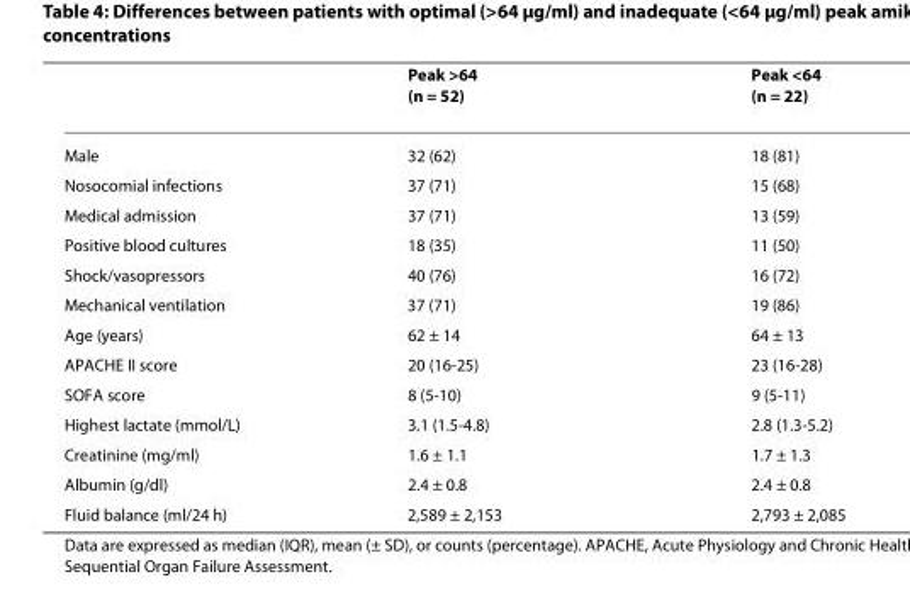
<table><thead><tr><td></td><td>Peak &gt;64 (n = 52)</td><td>Peak &lt;64 (n = 22)</td></tr></thead><tbody><tr><td>Male</td><td>32 (62)</td><td>18 (81)</td></tr><tr><td>Nosocomial infections</td><td>37 (71)</td><td>15 (68)</td></tr><tr><td>Medical admission</td><td>37 (71)</td><td>13 (59)</td></tr><tr><td>Positive blood cultures</td><td>18 (35)</td><td>11 (50)</td></tr><tr><td>Shock/vasopressors</td><td>40 (76)</td><td>16 (72)</td></tr><tr><td>Mechanical ventilation</td><td>37 (71)</td><td>19 (86)</td></tr><tr><td>Age (years)</td><td>62 ± 14</td><td>64 ± 13</td></tr><tr><td>APACHE II score</td><td>20 (16-25)</td><td>23 (16-28)</td></tr><tr><td>SOFA score</td><td>8 (5-10)</td><td>9 (5-11)</td></tr><tr><td>Highest lactate (mmol/L)</td><td>3.1 (1.5-4.8)</td><td>2.8 (1.3-5.2)</td></tr><tr><td>Creatinine (mg/ml)</td><td>1.6 ± 1.1</td><td>1.7 ± 1.3</td></tr><tr><td>Albumin (g/dl)</td><td>2.4 ± 0.8</td><td>2.4 ± 0.8</td></tr><tr><td>Fluid balance (ml/24 h)</td><td>2,589 ± 2,153</td><td>2,793 ± 2,085</td></tr></tbody></table>